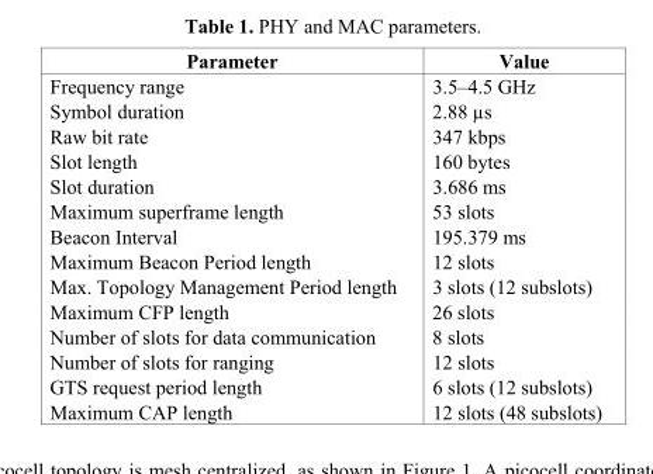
<table><thead><tr><td>Parameter</td><td>Value</td></tr></thead><tbody><tr><td>Frequency range</td><td>3.5–4.5 GHz</td></tr><tr><td>Symbol duration</td><td>2.88 µs</td></tr><tr><td>Raw bit rate</td><td>347 kbps</td></tr><tr><td>Slot length</td><td>160 bytes</td></tr><tr><td>Slot duration</td><td>3.686 ms</td></tr><tr><td>Maximum superframe length</td><td>53 slots</td></tr><tr><td>Beacon Interval</td><td>195.379 ms</td></tr><tr><td>Maximum Beacon Period length</td><td>12 slots</td></tr><tr><td>Max. Topology Management Period length</td><td>3 slots (12 subslots)</td></tr><tr><td>Maximum CFP length</td><td>26 slots</td></tr><tr><td>Number of slots for data communication</td><td>8 slots</td></tr><tr><td>Number of slots for ranging</td><td>12 slots</td></tr><tr><td>GTS request period length</td><td>6 slots (12 subslots)</td></tr><tr><td>Maximum CAP length</td><td>12 slots (48 subslots)</td></tr></tbody></table>